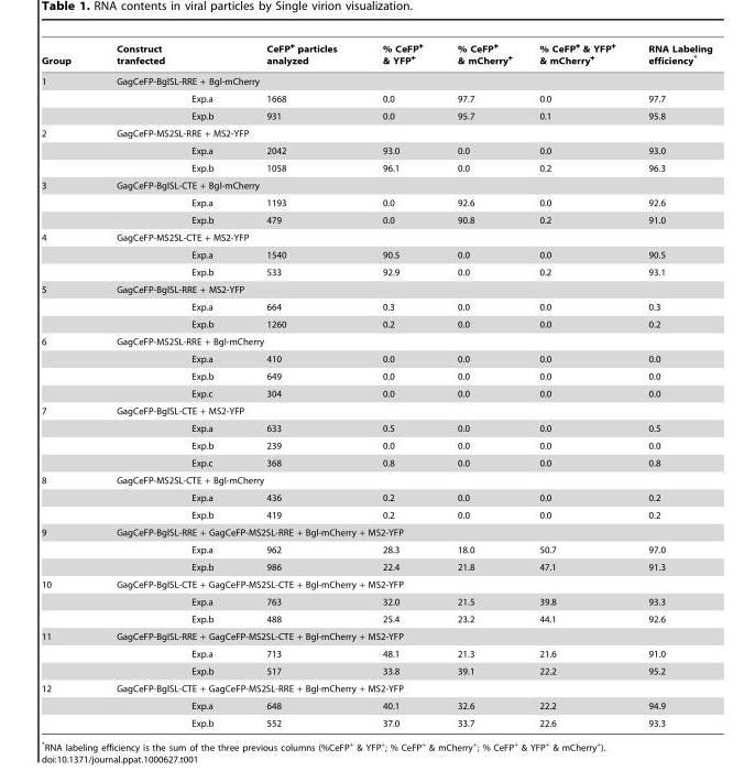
<table><thead><tr><td>Group</td><td>Construct tranfected</td><td></td><td>CeFP<sup>+</sup> particles analyzed</td><td>% CeFP<sup>+</sup> &amp; YFP<sup>+</sup></td><td>% CeFP<sup>+</sup> &amp; mCherry<sup>+</sup></td><td>% CeFP<sup>+</sup> &amp; YFP<sup>+</sup> &amp; mCherry<sup>+</sup></td><td>RNA Labeling efficiency*</td></tr></thead><tbody><tr><td rowspan="3">1</td><td colspan="7">GagCeFP-BglSL-RRE + Bgl-mCherry</td></tr><tr><td></td><td>Exp.a</td><td>1668</td><td>0.0</td><td>97.7</td><td>0.0</td><td>97.7</td></tr><tr><td></td><td>Exp.b</td><td>931</td><td>0.0</td><td>95.7</td><td>0.1</td><td>95.8</td></tr><tr><td rowspan="3">2</td><td colspan="7">GagCeFP-MS2SL-RRE + MS2-YFP</td></tr><tr><td></td><td>Exp.a</td><td>2042</td><td>93.0</td><td>0.0</td><td>0.0</td><td>93.0</td></tr><tr><td></td><td>Exp.b</td><td>1058</td><td>96.1</td><td>0.0</td><td>0.2</td><td>96.3</td></tr><tr><td rowspan="3">3</td><td colspan="7">GagCeFP-BglSL-CTE + Bgl-mCherry</td></tr><tr><td></td><td>Exp.a</td><td>1193</td><td>0.0</td><td>92.6</td><td>0.0</td><td>92.6</td></tr><tr><td></td><td>Exp.b</td><td>479</td><td>0.0</td><td>90.8</td><td>0.2</td><td>91.0</td></tr><tr><td rowspan="3">4</td><td colspan="7">GagCeFP-MS2SL-CTE + MS2-YFP</td></tr><tr><td></td><td>Exp.a</td><td>1540</td><td>90.5</td><td>0.0</td><td>0.0</td><td>90.5</td></tr><tr><td></td><td>Exp.b</td><td>533</td><td>92.9</td><td>0.0</td><td>0.2</td><td>93.1</td></tr><tr><td rowspan="3">5</td><td colspan="7">GagCeFP-BglSL-RRE + MS2-YFP</td></tr><tr><td></td><td>Exp.a</td><td>664</td><td>0.3</td><td>0.0</td><td>0.0</td><td>0.3</td></tr><tr><td></td><td>Exp.b</td><td>1260</td><td>0.2</td><td>0.0</td><td>0.0</td><td>0.2</td></tr><tr><td rowspan="4">6</td><td colspan="7">GagCeFP-MS2SL-RRE + Bgl-mCherry</td></tr><tr><td></td><td>Exp.a</td><td>410</td><td>0.0</td><td>0.0</td><td>0.0</td><td>0.0</td></tr><tr><td></td><td>Exp.b</td><td>649</td><td>0.0</td><td>0.0</td><td>0.0</td><td>0.0</td></tr><tr><td></td><td>Exp.c</td><td>304</td><td>0.0</td><td>0.0</td><td>0.0</td><td>0.0</td></tr><tr><td rowspan="4">7</td><td colspan="7">GagCeFP-BglSL-CTE + MS2-YFP</td></tr><tr><td></td><td>Exp.a</td><td>633</td><td>0.5</td><td>0.0</td><td>0.0</td><td>0.5</td></tr><tr><td></td><td>Exp.b</td><td>239</td><td>0.0</td><td>0.0</td><td>0.0</td><td>0.0</td></tr><tr><td></td><td>Exp.c</td><td>368</td><td>0.8</td><td>0.0</td><td>0.0</td><td>0.8</td></tr><tr><td rowspan="3">8</td><td colspan="7">GagCeFP-MS2SL-CTE + Bgl-mCherry</td></tr><tr><td></td><td>Exp.a</td><td>436</td><td>0.2</td><td>0.0</td><td>0.0</td><td>0.2</td></tr><tr><td></td><td>Exp.b</td><td>419</td><td>0.2</td><td>0.0</td><td>0.0</td><td>0.2</td></tr><tr><td rowspan="3">9</td><td colspan="7">GagCeFP-BglSL-RRE + GagCeFP-MS2SL-RRE + Bgl-mCherry + MS2-YFP</td></tr><tr><td></td><td>Exp.a</td><td>962</td><td>28.3</td><td>18.0</td><td>50.7</td><td>97.0</td></tr><tr><td></td><td>Exp.b</td><td>986</td><td>22.4</td><td>21.8</td><td>47.1</td><td>91.3</td></tr><tr><td rowspan="3">10</td><td colspan="7">GagCeFP-BglSL-CTE + GagCeFP-MS2SL-CTE + Bgl-mCherry + MS2-YFP</td></tr><tr><td></td><td>Exp.a</td><td>763</td><td>32.0</td><td>21.5</td><td>39.8</td><td>93.3</td></tr><tr><td></td><td>Exp.b</td><td>488</td><td>25.4</td><td>23.2</td><td>44.1</td><td>92.6</td></tr><tr><td rowspan="3">11</td><td colspan="7">GagCeFP-BglSL-RRE + GagCeFP-MS2SL-CTE + Bgl-mCherry + MS2-YFP</td></tr><tr><td></td><td>Exp.a</td><td>713</td><td>48.1</td><td>21.3</td><td>21.6</td><td>91.0</td></tr><tr><td></td><td>Exp.b</td><td>517</td><td>33.8</td><td>39.1</td><td>22.2</td><td>95.2</td></tr><tr><td rowspan="3">12</td><td colspan="7">GagCeFP-BglSL-CTE + GagCeFP-MS2SL-RRE + Bgl-mCherry + MS2-YFP</td></tr><tr><td></td><td>Exp.a</td><td>648</td><td>40.1</td><td>32.6</td><td>22.2</td><td>94.9</td></tr><tr><td></td><td>Exp.b</td><td>552</td><td>37.0</td><td>33.7</td><td>22.6</td><td>93.3</td></tr></tbody></table>